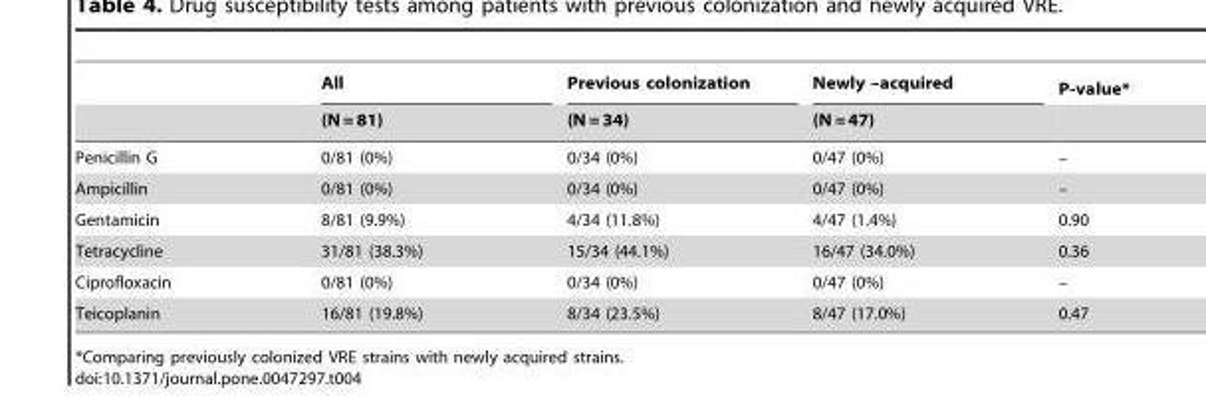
<table><thead><tr><td rowspan="2"></td><td rowspan="2">All (N = 81)</td><td rowspan="2">Previous colonization (N = 34)</td><td rowspan="2">Newly –acquired (N = 47)</td><td rowspan="2">P-value*</td></tr><tr></tr></thead><tbody><tr><td>Penicillin G</td><td>0/81 (0%)</td><td>0/34 (0%)</td><td>0/47 (0%)</td><td>–</td></tr><tr><td>Ampicillin</td><td>0/81 (0%)</td><td>0/34 (0%)</td><td>0/47 (0%)</td><td>–</td></tr><tr><td>Gentamicin</td><td>8/81 (9.9%)</td><td>4/34 (11.8%)</td><td>4/47 (1.4%)</td><td>0.90</td></tr><tr><td>Tetracycline</td><td>31/81 (38.3%)</td><td>15/34 (44.1%)</td><td>16/47 (34.0%)</td><td>0.36</td></tr><tr><td>Ciprofloxacin</td><td>0/81 (0%)</td><td>0/34 (0%)</td><td>0/47 (0%)</td><td>–</td></tr><tr><td>Teicoplanin</td><td>16/81 (19.8%)</td><td>8/34 (23.5%)</td><td>8/47 (17.0%)</td><td>0.47</td></tr></tbody></table>